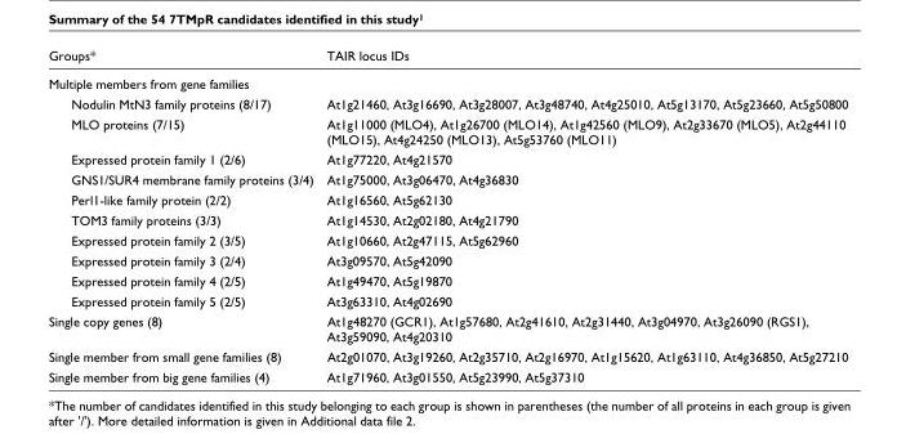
<table><thead><tr><td>Groups*</td><td>TAIR locus IDs</td></tr></thead><tbody><tr><td colspan="2">Multiple members from gene families</td></tr><tr><td>Nodulin MtN3 family proteins (8/17)</td><td>At1g21460, At3g16690, At3g28007, At3g48740, At4g25010, At5g13170, At5g23660, At5g50800</td></tr><tr><td>MLO proteins (7/15)</td><td>At1g11000 (MLO4), At1g26700 (MLO14), At1g42560 (MLO9), At2g33670 (MLO5), At2g44110 (MLO15), At4g24250 (MLO13), At5g53760 (MLO11)</td></tr><tr><td>Expressed protein family 1 (2/6)</td><td>At1g77220, At4g21570</td></tr><tr><td>GNS1/SUR4 membrane family proteins (3/4)</td><td>At1g75000, At3g06470, At4g36830</td></tr><tr><td>Perl1-like family protein (2/2)</td><td>At1g16560, At5g62130</td></tr><tr><td>TOM3 family proteins (3/3)</td><td>At1g14530, At2g02180, At4g21790</td></tr><tr><td>Expressed protein family 2 (3/5)</td><td>At1g10660, At2g47115, At5g62960</td></tr><tr><td>Expressed protein family 3 (2/4)</td><td>At3g09570, At5g42090</td></tr><tr><td>Expressed protein family 4 (2/5)</td><td>At1g49470, At5g19870</td></tr><tr><td>Expressed protein family 5 (2/5)</td><td>At3g63310, At4g02690</td></tr><tr><td>Single copy genes (8)</td><td>At1g48270 (GCR1), At1g57680, At2g41610, At2g31440, At3g04970, At3g26090 (RGS1), At3g59090, At4g20310</td></tr><tr><td>Single member from small gene families (8)</td><td>At2g01070, At3g19260, At2g35710, At2g16970, At1g15620, At1g63110, At4g36850, At5g27210</td></tr><tr><td>Single member from big gene families (4)</td><td>At1g71960, At3g01550, At5g23990, At5g37310</td></tr></tbody></table>